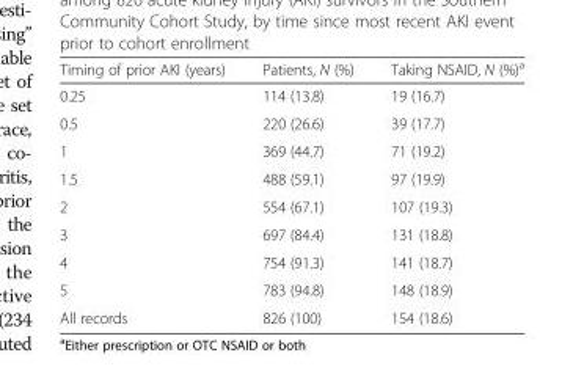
<table><thead><tr><td>Timing of prior AKI (years)</td><td>Patients, N (%)</td><td>Taking NSAID, N (%)<sup>a</sup></td></tr></thead><tbody><tr><td>0.25</td><td>114 (13.8)</td><td>19 (16.7)</td></tr><tr><td>0.5</td><td>220 (26.6)</td><td>39 (17.7)</td></tr><tr><td>1</td><td>369 (44.7)</td><td>71 (19.2)</td></tr><tr><td>1.5</td><td>488 (59.1)</td><td>97 (19.9)</td></tr><tr><td>2</td><td>554 (67.1)</td><td>107 (19.3)</td></tr><tr><td>3</td><td>697 (84.4)</td><td>131 (18.8)</td></tr><tr><td>4</td><td>754 (91.3)</td><td>141 (18.7)</td></tr><tr><td>5</td><td>783 (94.8)</td><td>148 (18.9)</td></tr><tr><td>All records</td><td>826 (100)</td><td>154 (18.6)</td></tr></tbody></table>